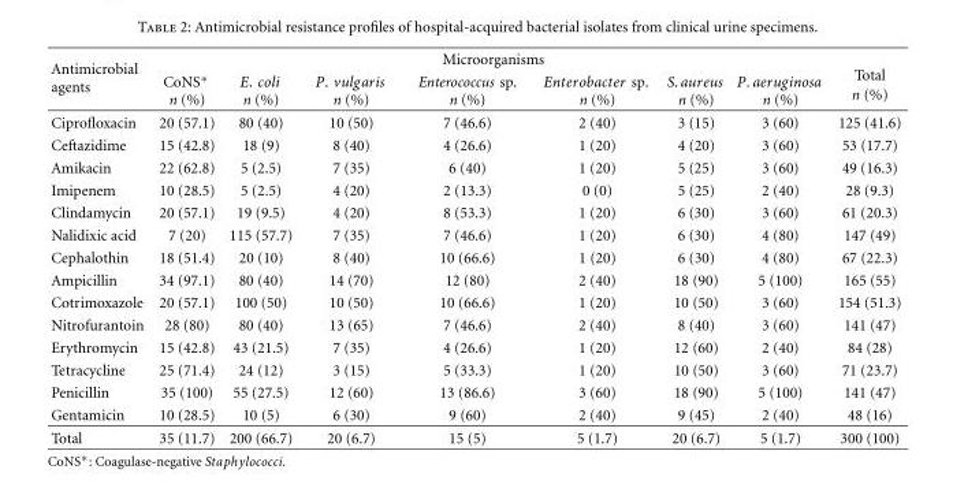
<table><thead><tr><td rowspan="2">Antimicrobial agents</td><td colspan="7">Microorganisms</td><td rowspan="2">Total n (%)</td></tr><tr><td>CoNS∗ n (%)</td><td>E. coli n (%)</td><td>P. vulgaris n (%)</td><td>Enterococcus sp. n (%)</td><td>Enterobacter sp. n (%)</td><td>S. aureus n (%)</td><td>P. aeruginosa n (%)</td></tr></thead><tbody><tr><td>Ciprofloxacin</td><td>20 (57.1)</td><td>80 (40)</td><td>10 (50)</td><td>7 (46.6)</td><td>2 (40)</td><td>3 (15)</td><td>3 (60)</td><td>125 (41.6)</td></tr><tr><td>Ceftazidime</td><td>15 (42.8)</td><td>18 (9)</td><td>8 (40)</td><td>4 (26.6)</td><td>1 (20)</td><td>4 (20)</td><td>3 (60)</td><td>53 (17.7)</td></tr><tr><td>Amikacin</td><td>22 (62.8)</td><td>5 (2.5)</td><td>7 (35)</td><td>6 (40)</td><td>1 (20)</td><td>5 (25)</td><td>3 (60)</td><td>49 (16.3)</td></tr><tr><td>Imipenem</td><td>10 (28.5)</td><td>5 (2.5)</td><td>4 (20)</td><td>2 (13.3)</td><td>0 (0)</td><td>5 (25)</td><td>2 (40)</td><td>28 (9.3)</td></tr><tr><td>Clindamycin</td><td>20 (57.1)</td><td>19 (9.5)</td><td>4 (20)</td><td>8 (53.3)</td><td>1 (20)</td><td>6 (30)</td><td>3 (60)</td><td>61 (20.3)</td></tr><tr><td>Nalidixic acid</td><td>7 (20)</td><td>115 (57.7)</td><td>7 (35)</td><td>7 (46.6)</td><td>1 (20)</td><td>6 (30)</td><td>4 (80)</td><td>147 (49)</td></tr><tr><td>Cephalothin</td><td>18 (51.4)</td><td>20 (10)</td><td>8 (40)</td><td>10 (66.6)</td><td>1 (20)</td><td>6 (30)</td><td>4 (80)</td><td>67 (22.3)</td></tr><tr><td>Ampicillin</td><td>34 (97.1)</td><td>80 (40)</td><td>14 (70)</td><td>12 (80)</td><td>2 (40)</td><td>18 (90)</td><td>5 (100)</td><td>165 (55)</td></tr><tr><td>Cotrimoxazole</td><td>20 (57.1)</td><td>100 (50)</td><td>10 (50)</td><td>10 (66.6)</td><td>1 (20)</td><td>10 (50)</td><td>3 (60)</td><td>154 (51.3)</td></tr><tr><td>Nitrofurantoin</td><td>28 (80)</td><td>80 (40)</td><td>13 (65)</td><td>7 (46.6)</td><td>2 (40)</td><td>8 (40)</td><td>3 (60)</td><td>141 (47)</td></tr><tr><td>Erythromycin</td><td>15 (42.8)</td><td>43 (21.5)</td><td>7 (35)</td><td>4 (26.6)</td><td>1 (20)</td><td>12 (60)</td><td>2 (40)</td><td>84 (28)</td></tr><tr><td>Tetracycline</td><td>25 (71.4)</td><td>24 (12)</td><td>3 (15)</td><td>5 (33.3)</td><td>1 (20)</td><td>10 (50)</td><td>3 (60)</td><td>71 (23.7)</td></tr><tr><td>Penicillin</td><td>35 (100)</td><td>55 (27.5)</td><td>12 (60)</td><td>13 (86.6)</td><td>3 (60)</td><td>18 (90)</td><td>5 (100)</td><td>141 (47)</td></tr><tr><td>Gentamicin</td><td>10 (28.5)</td><td>10 (5)</td><td>6 (30)</td><td>9 (60)</td><td>2 (40)</td><td>9 (45)</td><td>2 (40)</td><td>48 (16)</td></tr><tr><td>Total</td><td>35 (11.7)</td><td>200 (66.7)</td><td>20 (6.7)</td><td>15 (5)</td><td>5 (1.7)</td><td>20 (6.7)</td><td>5 (1.7)</td><td>300 (100)</td></tr></tbody></table>